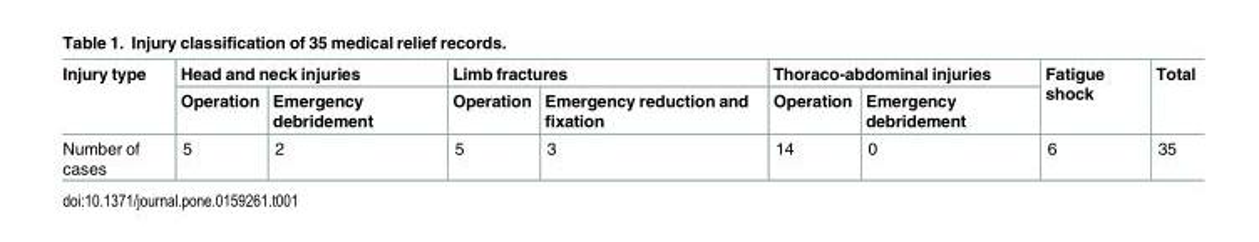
<table><thead><tr><td rowspan="2">Injury type</td><td colspan="2">Head and neck injuries</td><td colspan="2">Limb fractures</td><td colspan="2">Thoraco-abdominal injuries</td><td rowspan="2">Fatigue shock</td><td rowspan="2">Total</td></tr><tr><td>Operation</td><td>Emergency debridement</td><td>Operation</td><td>Emergency reduction and fixation</td><td>Operation</td><td>Emergency debridement</td></tr></thead><tbody><tr><td>Number of cases</td><td>5</td><td>2</td><td>5</td><td>3</td><td>14</td><td>0</td><td>6</td><td>35</td></tr></tbody></table>